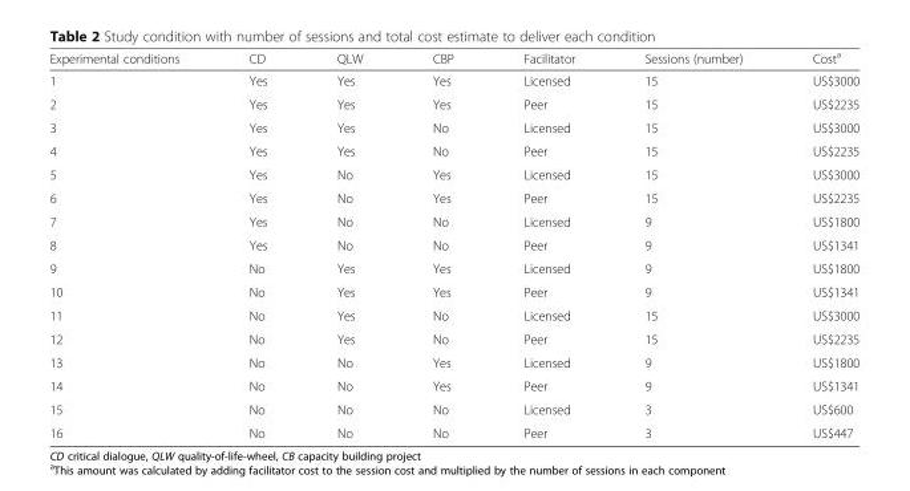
<table><thead><tr><td>Experimental conditions</td><td>CD</td><td>QLW</td><td>CBP</td><td>Facilitator</td><td>Sessions (number)</td><td>Cost<sup>a</sup></td></tr></thead><tbody><tr><td>1</td><td>Yes</td><td>Yes</td><td>Yes</td><td>Licensed</td><td>15</td><td>US$3000</td></tr><tr><td>2</td><td>Yes</td><td>Yes</td><td>Yes</td><td>Peer</td><td>15</td><td>US$2235</td></tr><tr><td>3</td><td>Yes</td><td>Yes</td><td>No</td><td>Licensed</td><td>15</td><td>US$3000</td></tr><tr><td>4</td><td>Yes</td><td>Yes</td><td>No</td><td>Peer</td><td>15</td><td>US$2235</td></tr><tr><td>5</td><td>Yes</td><td>No</td><td>Yes</td><td>Licensed</td><td>15</td><td>US$3000</td></tr><tr><td>6</td><td>Yes</td><td>No</td><td>Yes</td><td>Peer</td><td>15</td><td>US$2235</td></tr><tr><td>7</td><td>Yes</td><td>No</td><td>No</td><td>Licensed</td><td>9</td><td>US$1800</td></tr><tr><td>8</td><td>Yes</td><td>No</td><td>No</td><td>Peer</td><td>9</td><td>US$1341</td></tr><tr><td>9</td><td>No</td><td>Yes</td><td>Yes</td><td>Licensed</td><td>9</td><td>US$1800</td></tr><tr><td>10</td><td>No</td><td>Yes</td><td>Yes</td><td>Peer</td><td>9</td><td>US$1341</td></tr><tr><td>11</td><td>No</td><td>Yes</td><td>No</td><td>Licensed</td><td>15</td><td>US$3000</td></tr><tr><td>12</td><td>No</td><td>Yes</td><td>No</td><td>Peer</td><td>15</td><td>US$2235</td></tr><tr><td>13</td><td>No</td><td>No</td><td>Yes</td><td>Licensed</td><td>9</td><td>US$1800</td></tr><tr><td>14</td><td>No</td><td>No</td><td>Yes</td><td>Peer</td><td>9</td><td>US$1341</td></tr><tr><td>15</td><td>No</td><td>No</td><td>No</td><td>Licensed</td><td>3</td><td>US$600</td></tr><tr><td>16</td><td>No</td><td>No</td><td>No</td><td>Peer</td><td>3</td><td>US$447</td></tr></tbody></table>